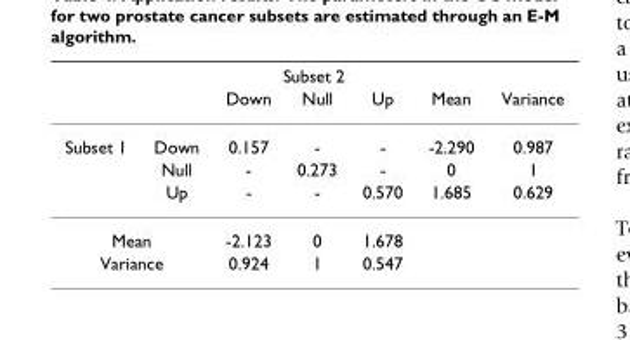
<table><thead><tr><td rowspan="2"></td><td rowspan="2"></td><td colspan="3">Subset 2</td><td rowspan="2">Mean</td><td rowspan="2">Variance</td></tr><tr><td>Down</td><td>Null</td><td>Up</td></tr></thead><tbody><tr><td rowspan="3">Subset 1</td><td>Down</td><td>0.157</td><td>-</td><td>-</td><td>-2.290</td><td>0.987</td></tr><tr><td>Null</td><td>-</td><td>0.273</td><td>-</td><td>0</td><td>1</td></tr><tr><td>Up</td><td>-</td><td>-</td><td>0.570</td><td>1.685</td><td>0.629</td></tr><tr><td colspan="2">Mean</td><td>-2.123</td><td>0</td><td>1.678</td><td></td><td></td></tr><tr><td colspan="2">Variance</td><td>0.924</td><td>1</td><td>0.547</td><td></td><td></td></tr></tbody></table>